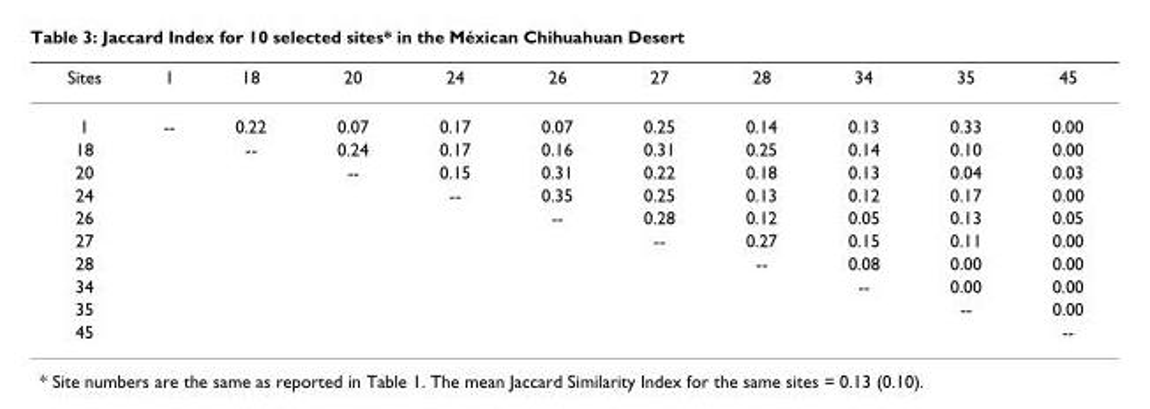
<table><thead><tr><td>Sites</td><td>1</td><td>18</td><td>20</td><td>24</td><td>26</td><td>27</td><td>28</td><td>34</td><td>35</td><td>45</td></tr></thead><tbody><tr><td>1</td><td>--</td><td>0.22</td><td>0.07</td><td>0.17</td><td>0.07</td><td>0.25</td><td>0.14</td><td>0.13</td><td>0.33</td><td>0.00</td></tr><tr><td>18</td><td></td><td>--</td><td>0.24</td><td>0.17</td><td>0.16</td><td>0.31</td><td>0.25</td><td>0.14</td><td>0.10</td><td>0.00</td></tr><tr><td>20</td><td></td><td></td><td>--</td><td>0.15</td><td>0.31</td><td>0.22</td><td>0.18</td><td>0.13</td><td>0.04</td><td>0.03</td></tr><tr><td>24</td><td></td><td></td><td></td><td>--</td><td>0.35</td><td>0.25</td><td>0.13</td><td>0.12</td><td>0.17</td><td>0.00</td></tr><tr><td>26</td><td></td><td></td><td></td><td></td><td>--</td><td>0.28</td><td>0.12</td><td>0.05</td><td>0.13</td><td>0.05</td></tr><tr><td>27</td><td></td><td></td><td></td><td></td><td></td><td>--</td><td>0.27</td><td>0.15</td><td>0.11</td><td>0.00</td></tr><tr><td>28</td><td></td><td></td><td></td><td></td><td></td><td></td><td>--</td><td>0.08</td><td>0.00</td><td>0.00</td></tr><tr><td>34</td><td></td><td></td><td></td><td></td><td></td><td></td><td></td><td>--</td><td>0.00</td><td>0.00</td></tr><tr><td>35</td><td></td><td></td><td></td><td></td><td></td><td></td><td></td><td></td><td>--</td><td>0.00</td></tr><tr><td>45</td><td></td><td></td><td></td><td></td><td></td><td></td><td></td><td></td><td></td><td>--</td></tr></tbody></table>